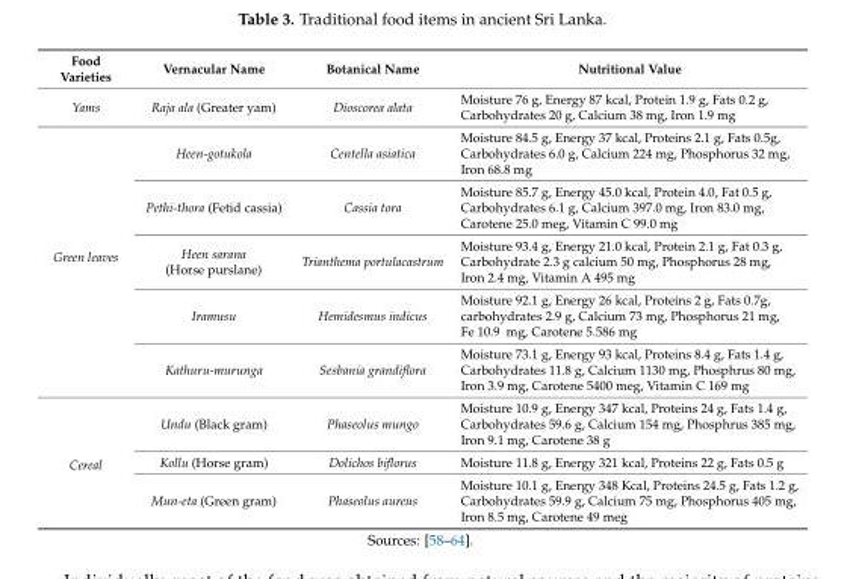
<table><thead><tr><td>Food Varieties</td><td>Vernacular Name</td><td>Botanical Name</td><td>Nutritional Value</td></tr></thead><tbody><tr><td>Yams</td><td>Raja ala (Greater yam)</td><td>Dioscorea alata</td><td>Moisture 76 g, Energy 87 kcal, Protein 1.9 g, Fats 0.2 g, Carbohydrates 20 g, Calcium 38 mg, Iron 1.9 mg</td></tr><tr><td rowspan="5">Green leaves</td><td>Heen-gotukola</td><td>Centella asiatica</td><td>Moisture 84.5 g, Energy 37 kcal, Proteins 2.1 g, Fats 0.5g, Carbohydrates 6.0 g, Calcium 224 mg, Phosphorus 32 mg, Iron 68.8 mg</td></tr><tr><td>Pethi-thora (Fetid cassia)</td><td>Cassia tora</td><td>Moisture 85.7 g, Energy 45.0 kcal, Protein 4.0, Fat 0.5 g, Carbohydrates 6.1 g, Calcium 397.0 mg, Iron 83.0 mg, Carotene 25.0 meg, Vitamin C 99.0 mg</td></tr><tr><td>Heen sarana (Horse purslane)</td><td>Trianthema portulacastrum</td><td>Moisture 93.4 g, Energy 21.0 kcal, Protein 2.1 g, Fat 0.3 g, Carbohydrate 2.3 g calcium 50 mg, Phosphorus 28 mg, Iron 2.4 mg, Vitamin A 495 mg</td></tr><tr><td>Iramusu</td><td>Hemidesmus indicus</td><td>Moisture 92.1 g, Energy 26 kcal, Proteins 2 g, Fats 0.7g, carbohydrates 2.9 g, Calcium 73 mg, Phosphorus 21 mg, Fe 10.9 mg, Carotene 5.586 mg</td></tr><tr><td>Kathuru-murunga</td><td>Sesbania grandiflora</td><td>Moisture 73.1 g, Energy 93 kcal, Proteins 8.4 g, Fats 1.4 g, Carbohydrates 11.8 g, Calcium 1130 mg, Phosphrus 80 mg, Iron 3.9 mg, Carotene 5400 meg, Vitamin C 169 mg</td></tr><tr><td rowspan="3">Cereal</td><td>Undu (Black gram)</td><td>Phaseolus mungo</td><td>Moisture 10.9 g, Energy 347 kcal, Proteins 24 g, Fats 1.4 g, Carbohydrates 59.6 g, Calcium 154 mg, Phosphrus 385 mg, Iron 9.1 mg, Carotene 38 g</td></tr><tr><td>Kollu (Horse gram)</td><td>Dolichos biflorus</td><td>Moisture 11.8 g, Energy 321 kcal, Proteins 22 g, Fats 0.5 g</td></tr><tr><td>Mun-eta (Green gram)</td><td>Phaseolus aureus</td><td>Moisture 10.1 g, Energy 348 Kcal, Proteins 24.5 g, Fats 1.2 g, Carbohydrates 59.9 g, Calcium 75 mg, Phosphorus 405 mg, Iron 8.5 mg, Carotene 49 meg</td></tr></tbody></table>